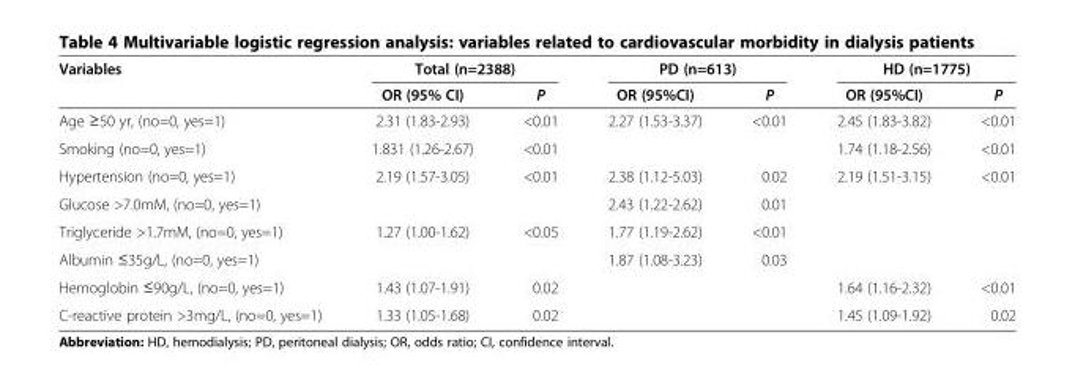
<table><thead><tr><td rowspan="2">Variables</td><td colspan="2">Total (n=2388)</td><td colspan="2">PD (n=613)</td><td colspan="2">HD (n=1775)</td></tr><tr><td>OR (95% CI)</td><td>P</td><td>OR (95%CI)</td><td>P</td><td>OR (95%CI)</td><td>P</td></tr></thead><tbody><tr><td>Age ≥50 yr, (no=0, yes=1)</td><td>2.31 (1.83-2.93)</td><td>&lt;0.01</td><td>2.27 (1.53-3.37)</td><td>&lt;0.01</td><td>2.45 (1.83-3.82)</td><td>&lt;0.01</td></tr><tr><td>Smoking (no=0, yes=1)</td><td>1.831 (1.26-2.67)</td><td>&lt;0.01</td><td></td><td></td><td>1.74 (1.18-2.56)</td><td>&lt;0.01</td></tr><tr><td>Hypertension (no=0, yes=1)</td><td>2.19 (1.57-3.05)</td><td>&lt;0.01</td><td>2.38 (1.12-5.03)</td><td>0.02</td><td>2.19 (1.51-3.15)</td><td>&lt;0.01</td></tr><tr><td>Glucose &gt;7.0mM, (no=0, yes=1)</td><td></td><td></td><td>2.43 (1.22-2.62)</td><td>0.01</td><td></td><td></td></tr><tr><td>Triglyceride &gt;1.7mM, (no=0, yes=1)</td><td>1.27 (1.00-1.62)</td><td>&lt;0.05</td><td>1.77 (1.19-2.62)</td><td>&lt;0.01</td><td></td><td></td></tr><tr><td>Albumin ≤35g/L, (no=0, yes=1)</td><td></td><td></td><td>1.87 (1.08-3.23)</td><td>0.03</td><td></td><td></td></tr><tr><td>Hemoglobin ≤90g/L, (no=0, yes=1)</td><td>1.43 (1.07-1.91)</td><td>0.02</td><td></td><td></td><td>1.64 (1.16-2.32)</td><td>&lt;0.01</td></tr><tr><td>C-reactive protein &gt;3mg/L, (no=0, yes=1)</td><td>1.33 (1.05-1.68)</td><td>0.02</td><td></td><td></td><td>1.45 (1.09-1.92)</td><td>0.02</td></tr></tbody></table>